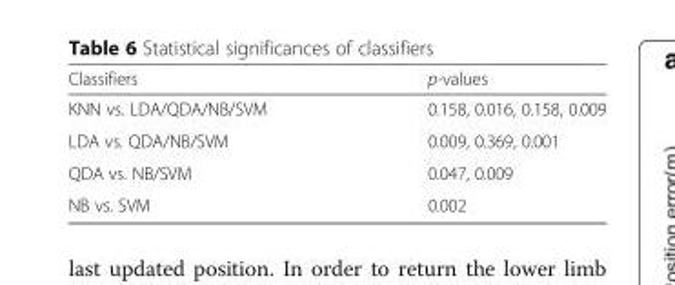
<table><thead><tr><td>Classifiers</td><td>p-values</td></tr></thead><tbody><tr><td>KNN vs. LDA/QDA/NB/SVM</td><td>0.158, 0.016, 0.158, 0.009</td></tr><tr><td>LDA vs. QDA/NB/SVM</td><td>0.009, 0.369, 0.001</td></tr><tr><td>QDA vs. NB/SVM</td><td>0.047, 0.009</td></tr><tr><td>NB vs. SVM</td><td>0.002</td></tr></tbody></table>